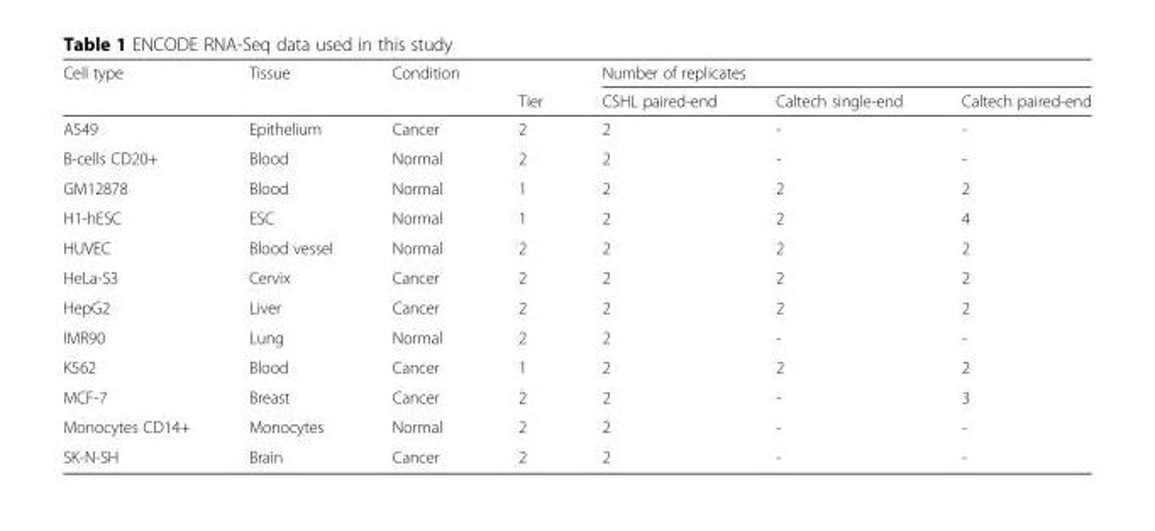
<table><thead><tr><td rowspan="2">Cell type</td><td rowspan="2">Tissue</td><td rowspan="2">Condition</td><td rowspan="2">Tier</td><td colspan="3">Number of replicates</td></tr><tr><td>CSHL paired-end</td><td>Caltech single-end</td><td>Caltech paired-end</td></tr></thead><tbody><tr><td>A549</td><td>Epithelium</td><td>Cancer</td><td>2</td><td>2</td><td>-</td><td>-</td></tr><tr><td>B-cells CD20+</td><td>Blood</td><td>Normal</td><td>2</td><td>2</td><td>-</td><td>-</td></tr><tr><td>GM12878</td><td>Blood</td><td>Normal</td><td>1</td><td>2</td><td>2</td><td>2</td></tr><tr><td>H1-hESC</td><td>ESC</td><td>Normal</td><td>1</td><td>2</td><td>2</td><td>4</td></tr><tr><td>HUVEC</td><td>Blood vessel</td><td>Normal</td><td>2</td><td>2</td><td>2</td><td>2</td></tr><tr><td>HeLa-S3</td><td>Cervix</td><td>Cancer</td><td>2</td><td>2</td><td>2</td><td>2</td></tr><tr><td>HepG2</td><td>Liver</td><td>Cancer</td><td>2</td><td>2</td><td>2</td><td>2</td></tr><tr><td>IMR90</td><td>Lung</td><td>Normal</td><td>2</td><td>2</td><td>-</td><td>-</td></tr><tr><td>K562</td><td>Blood</td><td>Cancer</td><td>1</td><td>2</td><td>2</td><td>2</td></tr><tr><td>MCF-7</td><td>Breast</td><td>Cancer</td><td>2</td><td>2</td><td>-</td><td>3</td></tr><tr><td>Monocytes CD14+</td><td>Monocytes</td><td>Normal</td><td>2</td><td>2</td><td>-</td><td>-</td></tr><tr><td>SK-N-SH</td><td>Brain</td><td>Cancer</td><td>2</td><td>2</td><td>-</td><td>-</td></tr></tbody></table>